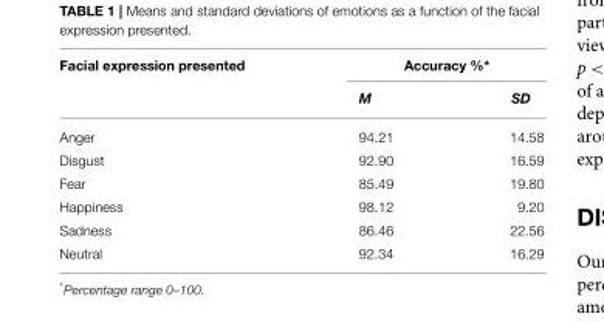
<table><thead><tr><td rowspan="2">Facial expression presented</td><td colspan="2">Accuracy %*</td></tr><tr><td>M</td><td>SD</td></tr></thead><tbody><tr><td>Anger</td><td>94.21</td><td>14.58</td></tr><tr><td>Disgust</td><td>92.90</td><td>16.59</td></tr><tr><td>Fear</td><td>85.49</td><td>19.80</td></tr><tr><td>Happiness</td><td>98.12</td><td>9.20</td></tr><tr><td>Sadness</td><td>86.46</td><td>22.56</td></tr><tr><td>Neutral</td><td>92.34</td><td>16.29</td></tr></tbody></table>